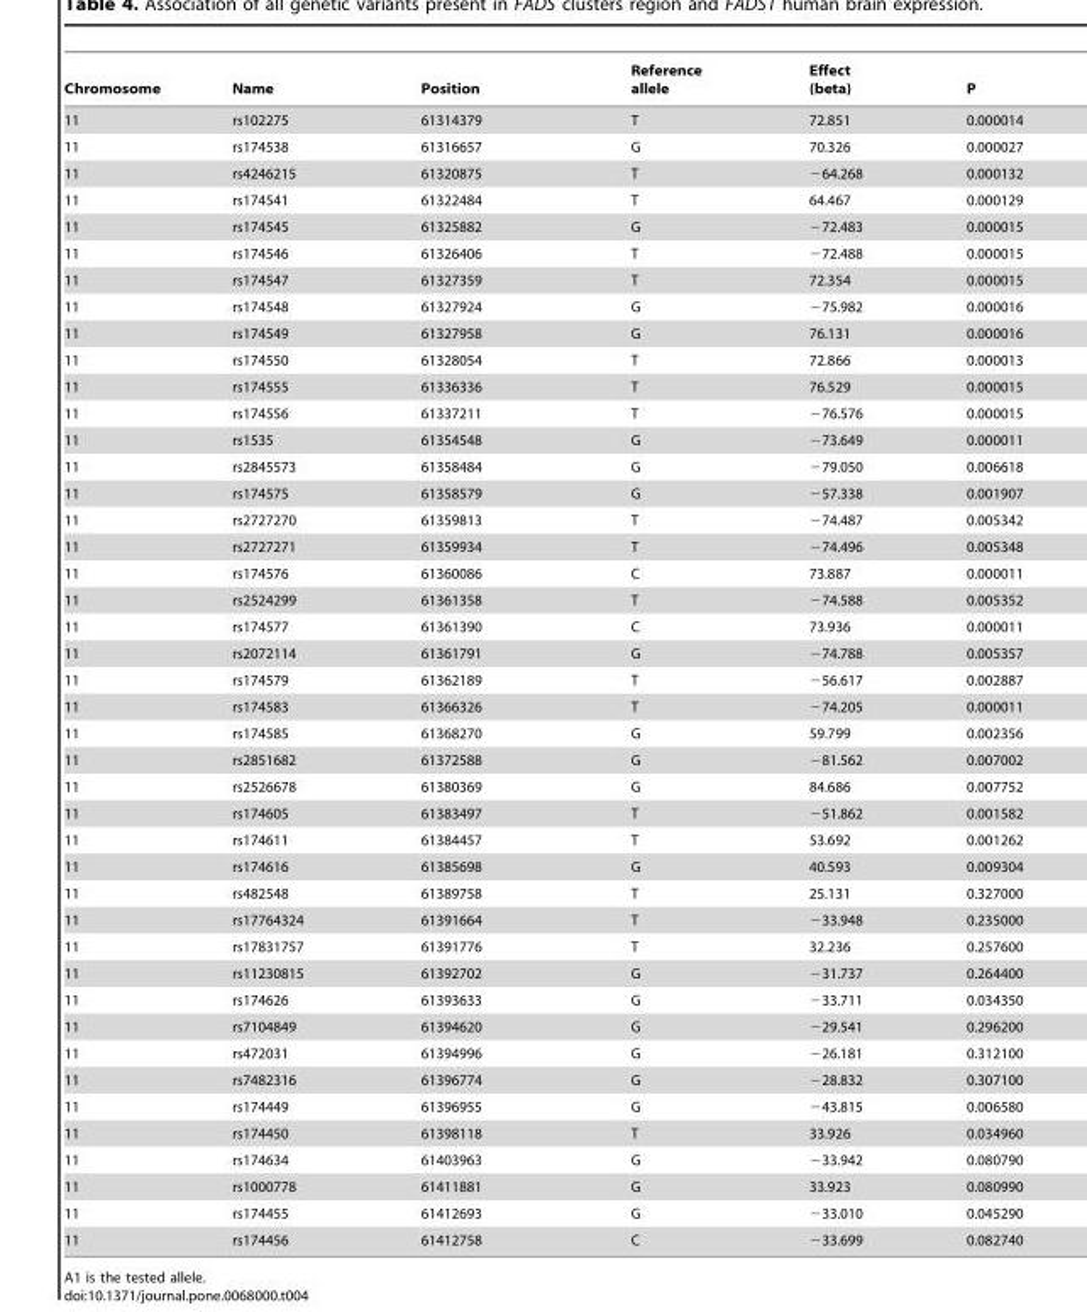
<table><thead><tr><td>Chromosome</td><td>Name</td><td>Position</td><td>Reference allele</td><td>Effect (beta)</td><td>P</td></tr></thead><tbody><tr><td>11</td><td>rs102275</td><td>61314379</td><td>T</td><td>72.851</td><td>0.000014</td></tr><tr><td>11</td><td>rs174538</td><td>61316657</td><td>G</td><td>70.326</td><td>0.000027</td></tr><tr><td>11</td><td>rs4246215</td><td>61320875</td><td>T</td><td>−64.268</td><td>0.000132</td></tr><tr><td>11</td><td>rs174541</td><td>61322484</td><td>T</td><td>64.467</td><td>0.000129</td></tr><tr><td>11</td><td>rs174545</td><td>61325882</td><td>G</td><td>−72.483</td><td>0.000015</td></tr><tr><td>11</td><td>rs174546</td><td>61326406</td><td>T</td><td>−72.488</td><td>0.000015</td></tr><tr><td>11</td><td>rs174547</td><td>61327359</td><td>T</td><td>72.354</td><td>0.000015</td></tr><tr><td>11</td><td>rs174548</td><td>61327924</td><td>G</td><td>−75.982</td><td>0.000016</td></tr><tr><td>11</td><td>rs174549</td><td>61327958</td><td>G</td><td>76.131</td><td>0.000016</td></tr><tr><td>11</td><td>rs174550</td><td>61328054</td><td>T</td><td>72.866</td><td>0.000013</td></tr><tr><td>11</td><td>rs174555</td><td>61336336</td><td>T</td><td>76.529</td><td>0.000015</td></tr><tr><td>11</td><td>rs174556</td><td>61337211</td><td>T</td><td>−76.576</td><td>0.000015</td></tr><tr><td>11</td><td>rs1535</td><td>61354548</td><td>G</td><td>−73.649</td><td>0.000011</td></tr><tr><td>11</td><td>rs2845573</td><td>61358484</td><td>G</td><td>−79.050</td><td>0.006618</td></tr><tr><td>11</td><td>rs174575</td><td>61358579</td><td>G</td><td>−57.338</td><td>0.001907</td></tr><tr><td>11</td><td>rs2727270</td><td>61359813</td><td>T</td><td>−74.487</td><td>0.005342</td></tr><tr><td>11</td><td>rs2727271</td><td>61359934</td><td>T</td><td>−74.496</td><td>0.005348</td></tr><tr><td>11</td><td>rs174576</td><td>61360086</td><td>C</td><td>73.887</td><td>0.000011</td></tr><tr><td>11</td><td>rs2524299</td><td>61361358</td><td>T</td><td>−74.588</td><td>0.005352</td></tr><tr><td>11</td><td>rs174577</td><td>61361390</td><td>C</td><td>73.936</td><td>0.000011</td></tr><tr><td>11</td><td>rs2072114</td><td>61361791</td><td>G</td><td>−74.788</td><td>0.005357</td></tr><tr><td>11</td><td>rs174579</td><td>61362189</td><td>T</td><td>−56.617</td><td>0.002887</td></tr><tr><td>11</td><td>rs174583</td><td>61366326</td><td>T</td><td>−74.205</td><td>0.000011</td></tr><tr><td>11</td><td>rs174585</td><td>61368270</td><td>G</td><td>59.799</td><td>0.002356</td></tr><tr><td>11</td><td>rs2851682</td><td>61372588</td><td>G</td><td>−81.562</td><td>0.007002</td></tr><tr><td>11</td><td>rs2526678</td><td>61380369</td><td>G</td><td>84.686</td><td>0.007752</td></tr><tr><td>11</td><td>rs174605</td><td>61383497</td><td>T</td><td>−51.862</td><td>0.001582</td></tr><tr><td>11</td><td>rs174611</td><td>61384457</td><td>T</td><td>53.692</td><td>0.001262</td></tr><tr><td>11</td><td>rs174616</td><td>61385698</td><td>G</td><td>40.593</td><td>0.009304</td></tr><tr><td>11</td><td>rs482548</td><td>61389758</td><td>T</td><td>25.131</td><td>0.327000</td></tr><tr><td>11</td><td>rs17764324</td><td>61391664</td><td>T</td><td>−33.948</td><td>0.235000</td></tr><tr><td>11</td><td>rs17831757</td><td>61391776</td><td>T</td><td>32.236</td><td>0.257600</td></tr><tr><td>11</td><td>rs11230815</td><td>61392702</td><td>G</td><td>−31.737</td><td>0.264400</td></tr><tr><td>11</td><td>rs174626</td><td>61393633</td><td>G</td><td>−33.711</td><td>0.034350</td></tr><tr><td>11</td><td>rs7104849</td><td>61394620</td><td>G</td><td>−29.541</td><td>0.296200</td></tr><tr><td>11</td><td>rs472031</td><td>61394996</td><td>G</td><td>−26.181</td><td>0.312100</td></tr><tr><td>11</td><td>rs7482316</td><td>61396774</td><td>G</td><td>−28.832</td><td>0.307100</td></tr><tr><td>11</td><td>rs174449</td><td>61396955</td><td>G</td><td>−43.815</td><td>0.006580</td></tr><tr><td>11</td><td>rs174450</td><td>61398118</td><td>T</td><td>33.926</td><td>0.034960</td></tr><tr><td>11</td><td>rs174634</td><td>61403963</td><td>G</td><td>−33.942</td><td>0.080790</td></tr><tr><td>11</td><td>rs1000778</td><td>61411881</td><td>G</td><td>33.923</td><td>0.080990</td></tr><tr><td>11</td><td>rs174455</td><td>61412693</td><td>G</td><td>−33.010</td><td>0.045290</td></tr><tr><td>11</td><td>rs174456</td><td>61412758</td><td>C</td><td>−33.699</td><td>0.082740</td></tr></tbody></table>